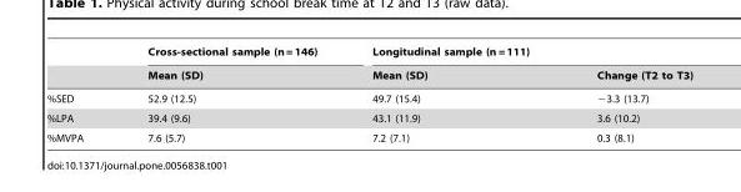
<table><thead><tr><td rowspan="2"></td><td rowspan="2">Cross-sectional sample (n = 146) Mean (SD)</td><td colspan="2">Longitudinal sample (n = 111)</td></tr><tr><td>Mean (SD)</td><td>Change (T2 to T3)</td></tr></thead><tbody><tr><td>%SED</td><td>52.9 (12.5)</td><td>49.7 (15.4)</td><td>−3.3 (13.7)</td></tr><tr><td>%LPA</td><td>39.4 (9.6)</td><td>43.1 (11.9)</td><td>3.6 (10.2)</td></tr><tr><td>%MVPA</td><td>7.6 (5.7)</td><td>7.2 (7.1)</td><td>0.3 (8.1)</td></tr></tbody></table>